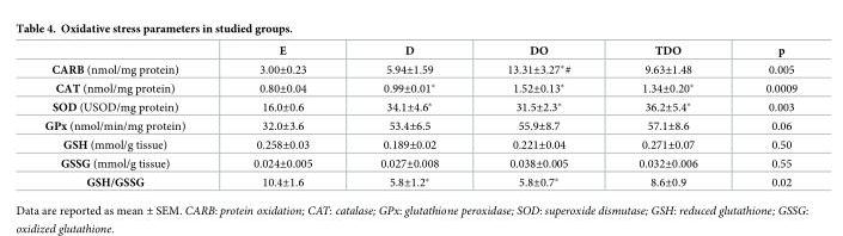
<table><thead><tr><td></td><td>E</td><td>D</td><td>DO</td><td>TDO</td><td>p</td></tr></thead><tbody><tr><td>CARB (nmol/mg protein)</td><td>3.00±0.23</td><td>5.94±1.59</td><td>13.31±3.27*#</td><td>9.63±1.48</td><td>0.005</td></tr><tr><td>CAT (nmol/mg protein)</td><td>0.80±0.04</td><td>0.99±0.01*</td><td>1.52±0.13*</td><td>1.34±0.20*</td><td>0.0009</td></tr><tr><td>SOD (USOD/mg protein)</td><td>16.0±0.6</td><td>34.1±4.6*</td><td>31.5±2.3*</td><td>36.2±5.4*</td><td>0.003</td></tr><tr><td>GPx (nmol/min/mg protein)</td><td>32.0±3.6</td><td>53.4±6.5</td><td>55.9±8.7</td><td>57.1±8.6</td><td>0.06</td></tr><tr><td>GSH (mmol/g tissue)</td><td>0.258±0.03</td><td>0.189±0.02</td><td>0.221±0.04</td><td>0.271±0.07</td><td>0.50</td></tr><tr><td>GSSG (mmol/g tissue)</td><td>0.024±0.005</td><td>0.027±0.008</td><td>0.038±0.005</td><td>0.032±0.006</td><td>0.55</td></tr><tr><td>GSH/GSSG</td><td>10.4±1.6</td><td>5.8±1.2*</td><td>5.8±0.7*</td><td>8.6±0.9</td><td>0.02</td></tr></tbody></table>